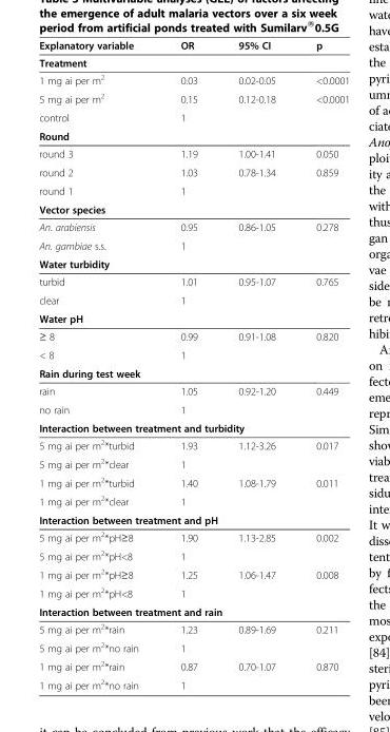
<table><thead><tr><td>Explanatory variable</td><td>OR</td><td>95% CI</td><td>p</td></tr></thead><tbody><tr><td colspan="4">Treatment</td></tr><tr><td>1 mg ai per m<sup>2</sup></td><td>0.03</td><td>0.02-0.05</td><td>&lt;0.0001</td></tr><tr><td>5 mg ai per m<sup>2</sup></td><td>0.15</td><td>0.12-0.18</td><td>&lt;0.0001</td></tr><tr><td>control</td><td>1</td><td></td><td></td></tr><tr><td colspan="4">Round</td></tr><tr><td>round 3</td><td>1.19</td><td>1.00-1.41</td><td>0.050</td></tr><tr><td>round 2</td><td>1.03</td><td>0.78-1.34</td><td>0.859</td></tr><tr><td>round 1</td><td>1</td><td></td><td></td></tr><tr><td colspan="4">Vector species</td></tr><tr><td>An. arabiensis</td><td>0.95</td><td>0.86-1.05</td><td>0.278</td></tr><tr><td>An. gambiae s.s.</td><td>1</td><td></td><td></td></tr><tr><td colspan="4">Water turbidity</td></tr><tr><td>turbid</td><td>1.01</td><td>0.95-1.07</td><td>0.765</td></tr><tr><td>clear</td><td>1</td><td></td><td></td></tr><tr><td colspan="4">Water pH</td></tr><tr><td>≥ 8</td><td>0.99</td><td>0.91-1.08</td><td>0.820</td></tr><tr><td>&lt; 8</td><td>1</td><td></td><td></td></tr><tr><td colspan="4">Rain during test week</td></tr><tr><td>rain</td><td>1.05</td><td>0.92-1.20</td><td>0.449</td></tr><tr><td>no rain</td><td>1</td><td></td><td></td></tr><tr><td colspan="4">Interaction between treatment and turbidity</td></tr><tr><td>5 mg ai per m<sup>2</sup>*turbid</td><td>1.93</td><td>1.12-3.26</td><td>0.017</td></tr><tr><td>5 mg ai per m<sup>2</sup>*clear</td><td>1</td><td></td><td></td></tr><tr><td>1 mg ai per m<sup>2</sup>*turbid</td><td>1.40</td><td>1.08-1.79</td><td>0.011</td></tr><tr><td>1 mg ai per m<sup>2</sup>*clear</td><td>1</td><td></td><td></td></tr><tr><td colspan="4">Interaction between treatment and pH</td></tr><tr><td>5 mg ai per m<sup>2</sup>*pH≥8</td><td>1.90</td><td>1.13-2.85</td><td>0.002</td></tr><tr><td>5 mg ai per m<sup>2</sup>*pH&lt;8</td><td>1</td><td></td><td></td></tr><tr><td>1 mg ai per m<sup>2</sup>*pH≥8</td><td>1.25</td><td>1.06-1.47</td><td>0.008</td></tr><tr><td>1 mg ai per m<sup>2</sup>*pH&lt;8</td><td>1</td><td></td><td></td></tr><tr><td colspan="4">Interaction between treatment and rain</td></tr><tr><td>5 mg ai per m<sup>2</sup>*rain</td><td>1.23</td><td>0.89-1.69</td><td>0.211</td></tr><tr><td>5 mg ai per m<sup>2</sup>*no rain</td><td>1</td><td></td><td></td></tr><tr><td>1 mg ai per m<sup>2</sup>*rain</td><td>0.87</td><td>0.70-1.07</td><td>0.870</td></tr><tr><td>1 mg ai per m<sup>2</sup>*no rain</td><td>1</td><td></td><td></td></tr></tbody></table>